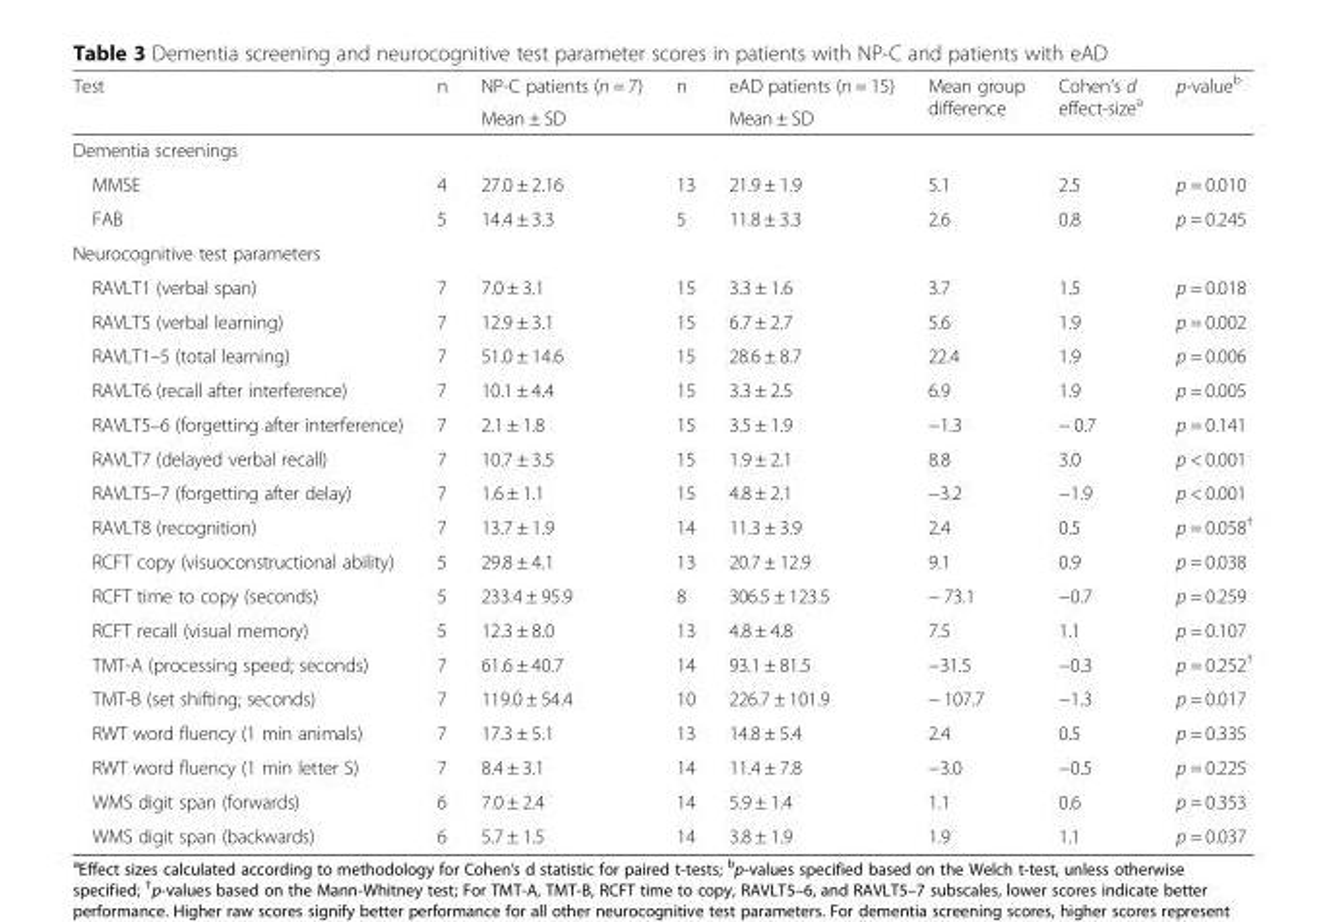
<table><thead><tr><td rowspan="2">Test</td><td rowspan="2">n</td><td rowspan="2">NP-C patients (n = 7) Mean ± SD</td><td rowspan="2">n</td><td rowspan="2">eAD patients (n = 15) Mean ± SD</td><td rowspan="2">Mean group difference</td><td rowspan="2">Cohen’s d effect-size<sup>a</sup></td><td rowspan="2">p-value<sup>b</sup></td></tr><tr></tr></thead><tbody><tr><td colspan="8">Dementia screenings</td></tr><tr><td>MMSE</td><td>4</td><td>27.0 ± 2.16</td><td>13</td><td>21.9 ± 1.9</td><td>5.1</td><td>2.5</td><td>p = 0.010</td></tr><tr><td>FAB</td><td>5</td><td>14.4 ± 3.3</td><td>5</td><td>11.8 ± 3.3</td><td>2.6</td><td>0.8</td><td>p = 0.245</td></tr><tr><td colspan="8">Neurocognitive test parameters</td></tr><tr><td>RAVLT1 (verbal span)</td><td>7</td><td>7.0 ± 3.1</td><td>15</td><td>3.3 ± 1.6</td><td>3.7</td><td>1.5</td><td>p = 0.018</td></tr><tr><td>RAVLT5 (verbal learning)</td><td>7</td><td>12.9 ± 3.1</td><td>15</td><td>6.7 ± 2.7</td><td>5.6</td><td>1.9</td><td>p = 0.002</td></tr><tr><td>RAVLT1–5 (total learning)</td><td>7</td><td>51.0 ± 14.6</td><td>15</td><td>28.6 ± 8.7</td><td>22.4</td><td>1.9</td><td>p = 0.006</td></tr><tr><td>RAVLT6 (recall after interference)</td><td>7</td><td>10.1 ± 4.4</td><td>15</td><td>3.3 ± 2.5</td><td>6.9</td><td>1.9</td><td>p = 0.005</td></tr><tr><td>RAVLT5–6 (forgetting after interference)</td><td>7</td><td>2.1 ± 1.8</td><td>15</td><td>3.5 ± 1.9</td><td>−1.3</td><td>− 0.7</td><td>p = 0.141</td></tr><tr><td>RAVLT7 (delayed verbal recall)</td><td>7</td><td>10.7 ± 3.5</td><td>15</td><td>1.9 ± 2.1</td><td>8.8</td><td>3.0</td><td>p &lt; 0.001</td></tr><tr><td>RAVLT5–7 (forgetting after delay)</td><td>7</td><td>1.6 ± 1.1</td><td>15</td><td>4.8 ± 2.1</td><td>−3.2</td><td>−1.9</td><td>p &lt; 0.001</td></tr><tr><td>RAVLT8 (recognition)</td><td>7</td><td>13.7 ± 1.9</td><td>14</td><td>11.3 ± 3.9</td><td>2.4</td><td>0.5</td><td>p = 0.058<sup>†</sup></td></tr><tr><td>RCFT copy (visuoconstructional ability)</td><td>5</td><td>29.8 ± 4.1</td><td>13</td><td>20.7 ± 12.9</td><td>9.1</td><td>0.9</td><td>p = 0.038</td></tr><tr><td>RCFT time to copy (seconds)</td><td>5</td><td>233.4 ± 95.9</td><td>8</td><td>306.5 ± 123.5</td><td>− 73.1</td><td>−0.7</td><td>p = 0.259</td></tr><tr><td>RCFT recall (visual memory)</td><td>5</td><td>12.3 ± 8.0</td><td>13</td><td>4.8 ± 4.8</td><td>7.5</td><td>1.1</td><td>p = 0.107</td></tr><tr><td>TMT-A (processing speed; seconds)</td><td>7</td><td>61.6 ± 40.7</td><td>14</td><td>93.1 ± 81.5</td><td>−31.5</td><td>−0.3</td><td>p = 0.252<sup>†</sup></td></tr><tr><td>TMT-B (set shifting; seconds)</td><td>7</td><td>119.0 ± 54.4</td><td>10</td><td>226.7 ± 101.9</td><td>− 107.7</td><td>−1.3</td><td>p = 0.017</td></tr><tr><td>RWT word fluency (1 min animals)</td><td>7</td><td>17.3 ± 5.1</td><td>13</td><td>14.8 ± 5.4</td><td>2.4</td><td>0.5</td><td>p = 0.335</td></tr><tr><td>RWT word fluency (1 min letter S)</td><td>7</td><td>8.4 ± 3.1</td><td>14</td><td>11.4 ± 7.8</td><td>−3.0</td><td>−0.5</td><td>p = 0.225</td></tr><tr><td>WMS digit span (forwards)</td><td>6</td><td>7.0 ± 2.4</td><td>14</td><td>5.9 ± 1.4</td><td>1.1</td><td>0.6</td><td>p = 0.353</td></tr><tr><td>WMS digit span (backwards)</td><td>6</td><td>5.7 ± 1.5</td><td>14</td><td>3.8 ± 1.9</td><td>1.9</td><td>1.1</td><td>p = 0.037</td></tr></tbody></table>